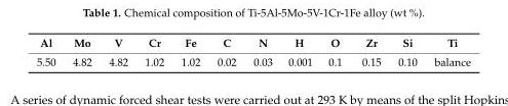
<table><thead><tr><td>Al</td><td>Mo</td><td>V</td><td>Cr</td><td>Fe</td><td>C</td><td>N</td><td>H</td><td>O</td><td>Zr</td><td>Si</td><td>Ti</td></tr></thead><tbody><tr><td>5.50</td><td>4.82</td><td>4.82</td><td>1.02</td><td>1.02</td><td>0.02</td><td>0.03</td><td>0.001</td><td>0.1</td><td>0.15</td><td>0.10</td><td>balance</td></tr></tbody></table>